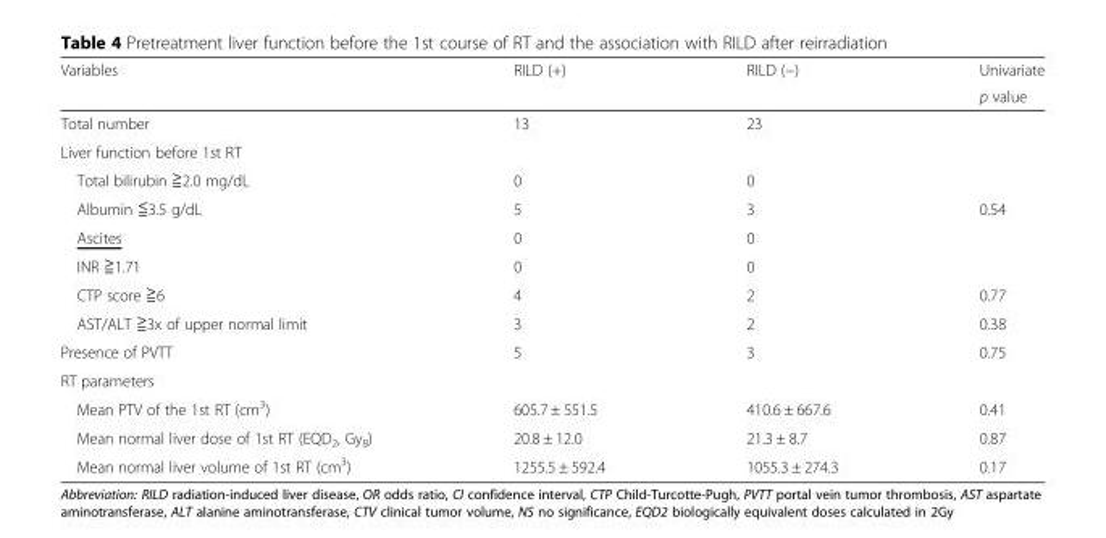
<table><thead><tr><td rowspan="2">Variables</td><td rowspan="2">RILD (+)</td><td rowspan="2">RILD (−)</td><td rowspan="2">Univariate p value</td></tr><tr></tr></thead><tbody><tr><td>Total number</td><td>13</td><td>23</td><td></td></tr><tr><td colspan="4">Liver function before 1st RT</td></tr><tr><td>Total bilirubin ≧2.0 mg/dL</td><td>0</td><td>0</td><td></td></tr><tr><td>Albumin ≦3.5 g/dL</td><td>5</td><td>3</td><td>0.54</td></tr><tr><td>Ascites</td><td>0</td><td>0</td><td></td></tr><tr><td>INR ≧1.71</td><td>0</td><td>0</td><td></td></tr><tr><td>CTP score ≧6</td><td>4</td><td>2</td><td>0.77</td></tr><tr><td>AST/ALT ≧3x of upper normal limit</td><td>3</td><td>2</td><td>0.38</td></tr><tr><td>Presence of PVTT</td><td>5</td><td>3</td><td>0.75</td></tr><tr><td colspan="4">RT parameters</td></tr><tr><td>Mean PTV of the 1st RT (cm<sup>3</sup>)</td><td>605.7 ± 551.5</td><td>410.6 ± 667.6</td><td>0.41</td></tr><tr><td>Mean normal liver dose of 1st RT (EQD<sub>2</sub>, Gy<sub>8</sub>)</td><td>20.8 ± 12.0</td><td>21.3 ± 8.7</td><td>0.87</td></tr><tr><td>Mean normal liver volume of 1st RT (cm<sup>3</sup>)</td><td>1255.5 ± 592.4</td><td>1055.3 ± 274.3</td><td>0.17</td></tr></tbody></table>